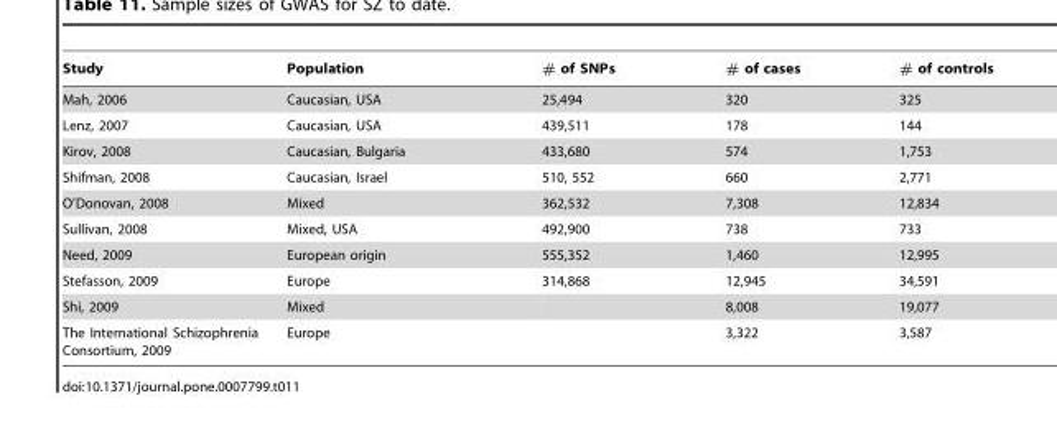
<table><thead><tr><td>Study</td><td>Population</td><td># of SNPs</td><td># of cases</td><td># of controls</td></tr></thead><tbody><tr><td>Mah, 2006</td><td>Caucasian, USA</td><td>25,494</td><td>320</td><td>325</td></tr><tr><td>Lenz, 2007</td><td>Caucasian, USA</td><td>439,511</td><td>178</td><td>144</td></tr><tr><td>Kirov, 2008</td><td>Caucasian, Bulgaria</td><td>433,680</td><td>574</td><td>1,753</td></tr><tr><td>Shifman, 2008</td><td>Caucasian, Israel</td><td>510, 552</td><td>660</td><td>2,771</td></tr><tr><td>O’Donovan, 2008</td><td>Mixed</td><td>362,532</td><td>7,308</td><td>12,834</td></tr><tr><td>Sullivan, 2008</td><td>Mixed, USA</td><td>492,900</td><td>738</td><td>733</td></tr><tr><td>Need, 2009</td><td>European origin</td><td>555,352</td><td>1,460</td><td>12,995</td></tr><tr><td>Stefasson, 2009</td><td>Europe</td><td>314,868</td><td>12,945</td><td>34,591</td></tr><tr><td>Shi, 2009</td><td>Mixed</td><td></td><td>8,008</td><td>19,077</td></tr><tr><td>The International Schizophrenia Consortium, 2009</td><td>Europe</td><td></td><td>3,322</td><td>3,587</td></tr></tbody></table>